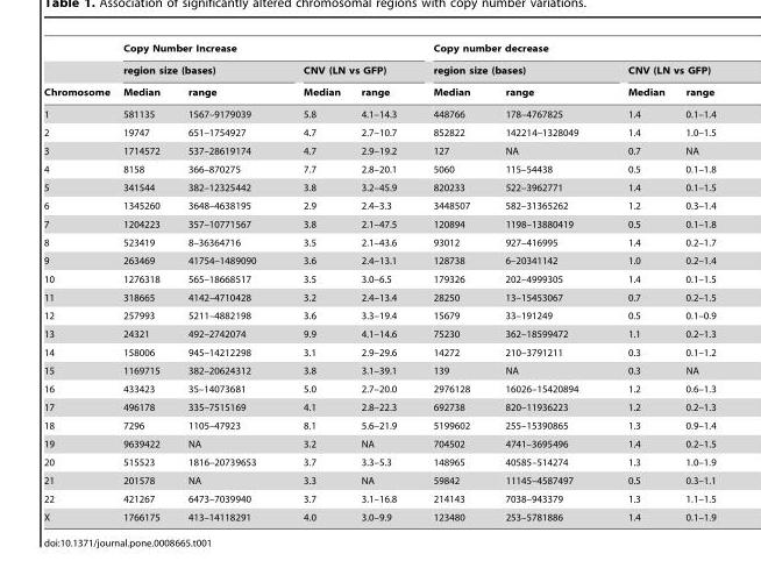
<table><thead><tr><td rowspan="3">Chromosome</td><td colspan="4">Copy Number Increase</td><td colspan="4">Copy number decrease</td></tr><tr><td colspan="2">region size (bases)</td><td colspan="2">CNV (LN vs GFP)</td><td colspan="2">region size (bases)</td><td colspan="2">CNV (LN vs GFP)</td></tr><tr><td>Median</td><td>range</td><td>Median</td><td>range</td><td>Median</td><td>range</td><td>Median</td><td>range</td></tr></thead><tbody><tr><td>1</td><td>581135</td><td>1567–9179039</td><td>5.8</td><td>4.1–14.3</td><td>448766</td><td>178–4767825</td><td>1.4</td><td>0.1–1.4</td></tr><tr><td>2</td><td>19747</td><td>651–1754927</td><td>4.7</td><td>2.7–10.7</td><td>852822</td><td>142214–1328049</td><td>1.4</td><td>1.0–1.5</td></tr><tr><td>3</td><td>1714572</td><td>537–28619174</td><td>4.7</td><td>2.9–19.2</td><td>127</td><td>NA</td><td>0.7</td><td>NA</td></tr><tr><td>4</td><td>8158</td><td>366–870275</td><td>7.7</td><td>2.8–20.1</td><td>5060</td><td>115–54438</td><td>0.5</td><td>0.1–1.8</td></tr><tr><td>5</td><td>341544</td><td>382–12325442</td><td>3.8</td><td>3.2–45.9</td><td>820233</td><td>522–3962771</td><td>1.4</td><td>0.1–1.5</td></tr><tr><td>6</td><td>1345260</td><td>3648–4638195</td><td>2.9</td><td>2.4–3.3</td><td>3448507</td><td>582–31365262</td><td>1.2</td><td>0.3–1.4</td></tr><tr><td>7</td><td>1204223</td><td>357–10771567</td><td>3.8</td><td>2.1–47.5</td><td>120894</td><td>1198–13880419</td><td>0.5</td><td>0.1–1.8</td></tr><tr><td>8</td><td>523419</td><td>8–36364716</td><td>3.5</td><td>2.1–43.6</td><td>93012</td><td>927–416995</td><td>1.4</td><td>0.2–1.7</td></tr><tr><td>9</td><td>263469</td><td>41754–1489090</td><td>3.6</td><td>2.4–13.1</td><td>128738</td><td>6–20341142</td><td>1.0</td><td>0.2–1.4</td></tr><tr><td>10</td><td>1276318</td><td>565–18668517</td><td>3.5</td><td>3.0–6.5</td><td>179326</td><td>202–4999305</td><td>1.4</td><td>0.1–1.5</td></tr><tr><td>11</td><td>318665</td><td>4142–4710428</td><td>3.2</td><td>2.4–13.4</td><td>28250</td><td>13–15453067</td><td>0.7</td><td>0.2–1.5</td></tr><tr><td>12</td><td>257993</td><td>5211–4882198</td><td>3.6</td><td>3.3–19.4</td><td>15679</td><td>33–191249</td><td>0.5</td><td>0.1–0.9</td></tr><tr><td>13</td><td>24321</td><td>492–2742074</td><td>9.9</td><td>4.1–14.6</td><td>75230</td><td>362–18599472</td><td>1.1</td><td>0.2–1.3</td></tr><tr><td>14</td><td>158006</td><td>945–14212298</td><td>3.1</td><td>2.9–29.6</td><td>14272</td><td>210–3791211</td><td>0.3</td><td>0.1–1.2</td></tr><tr><td>15</td><td>1169715</td><td>382–20624312</td><td>3.8</td><td>3.1–39.1</td><td>139</td><td>NA</td><td>0.3</td><td>NA</td></tr><tr><td>16</td><td>433423</td><td>35–14073681</td><td>5.0</td><td>2.7–20.0</td><td>2976128</td><td>16026–15420894</td><td>1.2</td><td>0.6–1.3</td></tr><tr><td>17</td><td>496178</td><td>335–7515169</td><td>4.1</td><td>2.8–22.3</td><td>692738</td><td>820–11936223</td><td>1.2</td><td>0.2–1.3</td></tr><tr><td>18</td><td>7296</td><td>1105–47923</td><td>8.1</td><td>5.6–21.9</td><td>5199602</td><td>255–15390865</td><td>1.3</td><td>0.9–1.4</td></tr><tr><td>19</td><td>9639422</td><td>NA</td><td>3.2</td><td>NA</td><td>704502</td><td>4741–3695496</td><td>1.4</td><td>0.2–1.5</td></tr><tr><td>20</td><td>515523</td><td>1816–20739653</td><td>3.7</td><td>3.3–5.3</td><td>148965</td><td>40585–514274</td><td>1.3</td><td>1.0–1.9</td></tr><tr><td>21</td><td>201578</td><td>NA</td><td>3.3</td><td>NA</td><td>59842</td><td>11145–4587497</td><td>0.5</td><td>0.3–1.1</td></tr><tr><td>22</td><td>421267</td><td>6473–7039940</td><td>3.7</td><td>3.1–16.8</td><td>214143</td><td>7038–943379</td><td>1.3</td><td>1.1–1.5</td></tr><tr><td>X</td><td>1766175</td><td>413–14118291</td><td>4.0</td><td>3.0–9.9</td><td>123480</td><td>253–5781886</td><td>1.4</td><td>0.1–1.9</td></tr></tbody></table>